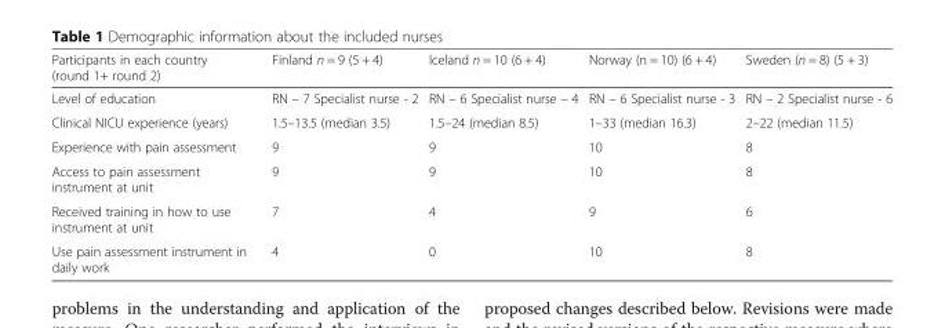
<table><thead><tr><td>Participants in each country (round 1+ round 2)</td><td>Finland n = 9 (5 + 4)</td><td>Iceland n = 10 (6 + 4)</td><td>Norway (n = 10) (6 + 4)</td><td>Sweden (n = 8) (5 + 3)</td></tr></thead><tbody><tr><td>Level of education</td><td>RN – 7 Specialist nurse - 2</td><td>RN – 6 Specialist nurse – 4</td><td>RN – 6 Specialist nurse - 3</td><td>RN – 2 Specialist nurse - 6</td></tr><tr><td>Clinical NICU experience (years)</td><td>1.5–13.5 (median 3.5)</td><td>1.5–24 (median 8.5)</td><td>1–33 (median 16.3)</td><td>2–22 (median 11.5)</td></tr><tr><td>Experience with pain assessment</td><td>9</td><td>9</td><td>10</td><td>8</td></tr><tr><td>Access to pain assessment instrument at unit</td><td>9</td><td>9</td><td>10</td><td>8</td></tr><tr><td>Received training in how to use instrument at unit</td><td>7</td><td>4</td><td>9</td><td>6</td></tr><tr><td>Use pain assessment instrument in daily work</td><td>4</td><td>0</td><td>10</td><td>8</td></tr></tbody></table>